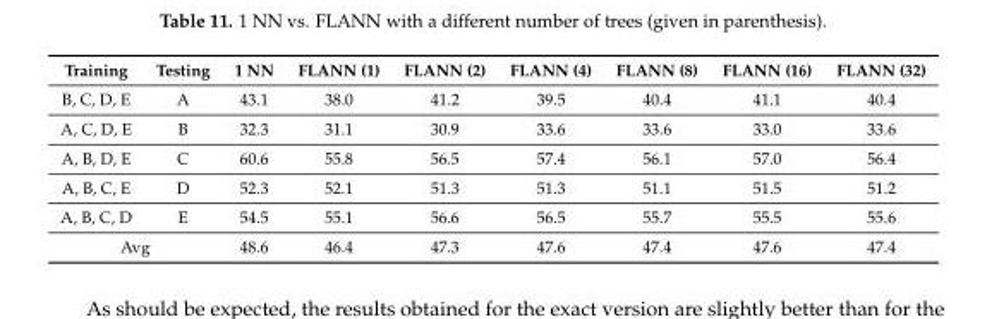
<table><thead><tr><td>Training</td><td>Testing</td><td>1 NN</td><td>FLANN (1)</td><td>FLANN (2)</td><td>FLANN (4)</td><td>FLANN (8)</td><td>FLANN (16)</td><td>FLANN (32)</td></tr></thead><tbody><tr><td>B, C, D, E</td><td>A</td><td>43.1</td><td>38.0</td><td>41.2</td><td>39.5</td><td>40.4</td><td>41.1</td><td>40.4</td></tr><tr><td>A, C, D, E</td><td>B</td><td>32.3</td><td>31.1</td><td>30.9</td><td>33.6</td><td>33.6</td><td>33.0</td><td>33.6</td></tr><tr><td>A, B, D, E</td><td>C</td><td>60.6</td><td>55.8</td><td>56.5</td><td>57.4</td><td>56.1</td><td>57.0</td><td>56.4</td></tr><tr><td>A, B, C, E</td><td>D</td><td>52.3</td><td>52.1</td><td>51.3</td><td>51.3</td><td>51.1</td><td>51.5</td><td>51.2</td></tr><tr><td>A, B, C, D</td><td>E</td><td>54.5</td><td>55.1</td><td>56.6</td><td>56.5</td><td>55.7</td><td>55.5</td><td>55.6</td></tr><tr><td colspan="2">Avg</td><td>48.6</td><td>46.4</td><td>47.3</td><td>47.6</td><td>47.4</td><td>47.6</td><td>47.4</td></tr></tbody></table>